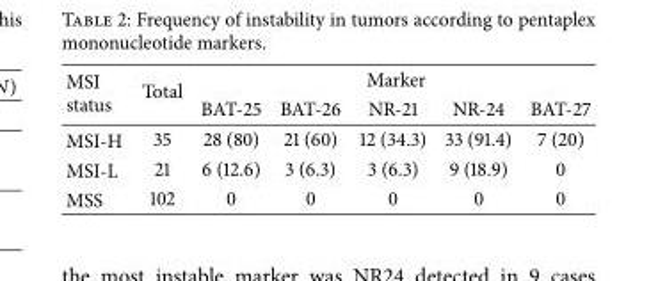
<table><thead><tr><td rowspan="2">MSI status</td><td rowspan="2">Total</td><td colspan="5">Marker</td></tr><tr><td>BAT-25</td><td>BAT-26</td><td>NR-21</td><td>NR-24</td><td>BAT-27</td></tr></thead><tbody><tr><td>MSI-H</td><td>35</td><td>28 (80)</td><td>21 (60)</td><td>12 (34.3)</td><td>33 (91.4)</td><td>7 (20)</td></tr><tr><td>MSI-L</td><td>21</td><td>6 (12.6)</td><td>3 (6.3)</td><td>3 (6.3)</td><td>9 (18.9)</td><td>0</td></tr><tr><td>MSS</td><td>102</td><td>0</td><td>0</td><td>0</td><td>0</td><td>0</td></tr></tbody></table>